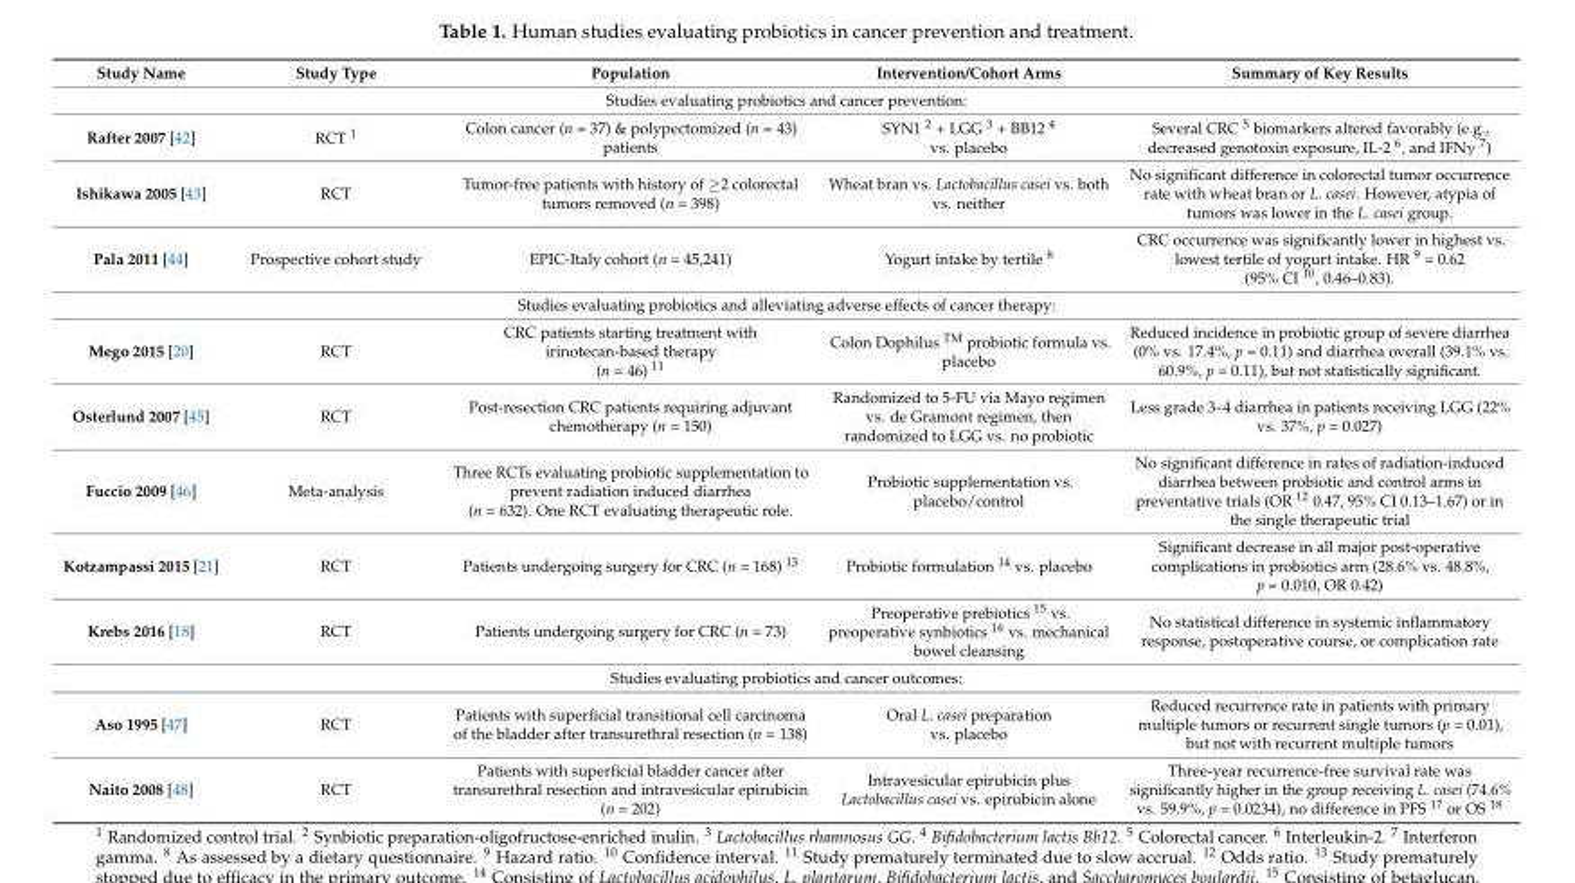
<table><thead><tr><td>Study Name</td><td>Study Type</td><td>Population</td><td>Intervention/Cohort Arms</td><td>Summary of Key Results</td></tr></thead><tbody><tr><td colspan="5">Studies evaluating probiotics and cancer prevention:</td></tr><tr><td>Rafter 2007 [42]</td><td>RCT <sup>1</sup></td><td>Colon cancer (n = 37) &amp; polypectomized (n = 43) patients</td><td>SYN1 <sup>2</sup> + LGG <sup>3</sup> + BB12 <sup>4</sup> vs. placebo</td><td>Several CRC <sup>5</sup> biomarkers altered favorably (e.g., decreased genotoxin exposure, IL-2 <sup>6</sup>, and IFNγ <sup>7</sup>)</td></tr><tr><td>Ishikawa 2005 [43]</td><td>RCT</td><td>Tumor-free patients with history of ≥2 colorectal tumors removed (n = 398)</td><td>Wheat bran vs. Lactobacillus casei vs. both vs. neither</td><td>No significant difference in colorectal tumor occurrence rate with wheat bran or L. casei. However, atypia of tumors was lower in the L. casei group.</td></tr><tr><td>Pala 2011 [44]</td><td>Prospective cohort study</td><td>EPIC-Italy cohort (n = 45,241)</td><td>Yogurt intake by tertile <sup>8</sup></td><td>CRC occurrence was significantly lower in highest vs. lowest tertile of yogurt intake. HR <sup>9</sup> = 0.62 (95% CI <sup>10</sup>, 0.46–0.83).</td></tr><tr><td colspan="5">Studies evaluating probiotics and alleviating adverse effects of cancer therapy:</td></tr><tr><td>Mego 2015 [20]</td><td>RCT</td><td>CRC patients starting treatment with irinotecan-based therapy (n = 46) <sup>11</sup></td><td>Colon Dophilus <sup>TM</sup> probiotic formula vs. placebo</td><td>Reduced incidence in probiotic group of severe diarrhea (0% vs. 17.4%, p = 0.11) and diarrhea overall (39.1% vs. 60.9%, p = 0.11), but not statistically significant.</td></tr><tr><td>Osterlund 2007 [45]</td><td>RCT</td><td>Post-resection CRC patients requiring adjuvant chemotherapy (n = 150)</td><td>Randomized to 5-FU via Mayo regimen vs. de Gramont regimen, then randomized to LGG vs. no probiotic</td><td>Less grade 3–4 diarrhea in patients receiving LGG (22% vs. 37%, p = 0.027)</td></tr><tr><td>Fuccio 2009 [46]</td><td>Meta-analysis</td><td>Three RCTs evaluating probiotic supplementation to prevent radiation induced diarrhea (n = 632). One RCT evaluating therapeutic role.</td><td>Probiotic supplementation vs. placebo/control</td><td>No significant difference in rates of radiation-induced diarrhea between probiotic and control arms in preventative trials (OR <sup>12</sup> 0.47, 95% CI 0.13–1.67) or in the single therapeutic trial</td></tr><tr><td>Kotzampassi 2015 [21]</td><td>RCT</td><td>Patients undergoing surgery for CRC (n = 168) <sup>13</sup></td><td>Probiotic formulation <sup>14</sup> vs. placebo</td><td>Significant decrease in all major post-operative complications in probiotics arm (28.6% vs. 48.8%, p = 0.010, OR 0.42)</td></tr><tr><td>Krebs 2016 [18]</td><td>RCT</td><td>Patients undergoing surgery for CRC (n = 73)</td><td>Preoperative prebiotics <sup>15</sup> vs. preoperative synbiotics <sup>16</sup> vs. mechanical bowel cleansing</td><td>No statistical difference in systemic inflammatory response, postoperative course, or complication rate</td></tr><tr><td colspan="5">Studies evaluating probiotics and cancer outcomes:</td></tr><tr><td>Aso 1995 [47]</td><td>RCT</td><td>Patients with superficial transitional cell carcinoma of the bladder after transurethral resection (n = 138)</td><td>Oral L. casei preparation vs. placebo</td><td>Reduced recurrence rate in patients with primary multiple tumors or recurrent single tumors (p = 0.01), but not with recurrent multiple tumors</td></tr><tr><td>Naito 2008 [48]</td><td>RCT</td><td>Patients with superficial bladder cancer after transurethral resection and intravesicular epirubicin (n = 202)</td><td>Intravesicular epirubicin plus Lactobacillus casei vs. epirubicin alone</td><td>Three-year recurrence-free survival rate was significantly higher in the group receiving L. casei (74.6% vs. 59.9%, p = 0.0234), no difference in PFS <sup>17</sup> or OS <sup>18</sup></td></tr></tbody></table>